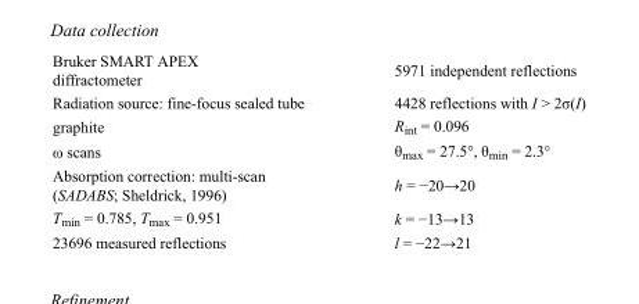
<table><tbody><tr><td>Bruker SMART APEX diffractometer</td><td>5971 independent reflections</td></tr><tr><td>Radiation source: fine-focus sealed tube</td><td>4428 reflections with I &gt; 2σ(I)</td></tr><tr><td>graphite</td><td>R<sub>int</sub> = 0.096</td></tr><tr><td>ω scans</td><td>θ<sub>max</sub> = 27.5°, θ<sub>min</sub> = 2.3°</td></tr><tr><td>Absorption correction: multi-scan (SADABS; Sheldrick, 1996)</td><td>h = −20→20</td></tr><tr><td>T<sub>min</sub> = 0.785, T<sub>max</sub> = 0.951</td><td>k = −13→13</td></tr><tr><td>23696 measured reflections</td><td>l = −22→21</td></tr></tbody></table>